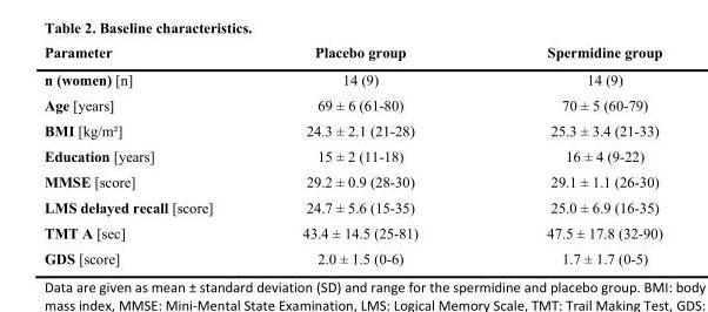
<table><tbody><tr><td>Parameter</td><td>Placebo group</td><td>Spermidine group</td></tr><tr><td>n (women) [n]</td><td>14 (9)</td><td>14 (9)</td></tr><tr><td>Age [years]</td><td>69 ± 6 (61-80)</td><td>70 ± 5 (60-79)</td></tr><tr><td>BMI [kg/m²]</td><td>24.3 ± 2.1 (21-28)</td><td>25.3 ± 3.4 (21-33)</td></tr><tr><td>Education [years]</td><td>15 ± 2 (11-18)</td><td>16 ± 4 (9-22)</td></tr><tr><td>MMSE [score]</td><td>29.2 ± 0.9 (28-30)</td><td>29.1 ± 1.1 (26-30)</td></tr><tr><td>LMS delayed recall [score]</td><td>24.7 ± 5.6 (15-35)</td><td>25.0 ± 6.9 (16-35)</td></tr><tr><td>TMT A [sec]</td><td>43.4 ± 14.5 (25-81)</td><td>47.5 ± 17.8 (32-90)</td></tr><tr><td>GDS [score]</td><td>2.0 ± 1.5 (0-6)</td><td>1.7 ± 1.7 (0-5)</td></tr></tbody></table>